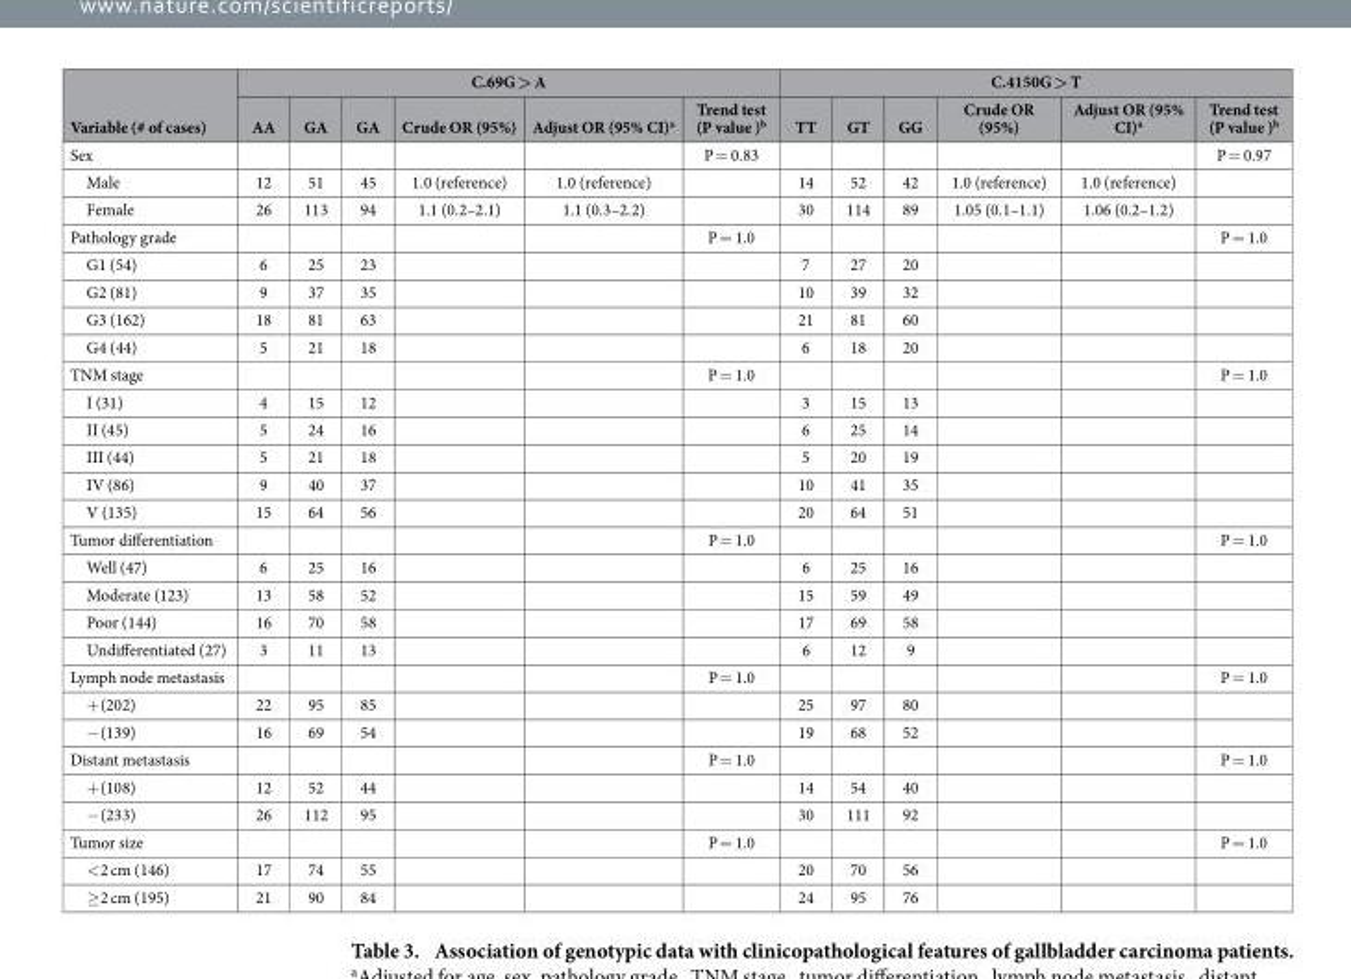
<table><thead><tr><td rowspan="2">Variable (# of cases)</td><td colspan="6">C.69G &gt; A</td><td colspan="6">C.4150G &gt; T</td></tr><tr><td>AA</td><td>GA</td><td>GA</td><td>Crude OR (95%)</td><td>Adjust OR (95% CI)<sup>a</sup></td><td>Trend test (P value )<sup>b</sup></td><td>TT</td><td>GT</td><td>GG</td><td>Crude OR (95%)</td><td>Adjust OR (95% CI)<sup>a</sup></td><td>Trend test (P value )<sup>b</sup></td></tr></thead><tbody><tr><td>Sex</td><td></td><td></td><td></td><td></td><td></td><td>P = 0.83</td><td></td><td></td><td></td><td></td><td></td><td>P = 0.97</td></tr><tr><td>Male</td><td>12</td><td>51</td><td>45</td><td>1.0 (reference)</td><td>1.0 (reference)</td><td></td><td>14</td><td>52</td><td>42</td><td>1.0 (reference)</td><td>1.0 (reference)</td><td></td></tr><tr><td>Female</td><td>26</td><td>113</td><td>94</td><td>1.1 (0.2–2.1)</td><td>1.1 (0.3–2.2)</td><td></td><td>30</td><td>114</td><td>89</td><td>1.05 (0.1–1.1)</td><td>1.06 (0.2–1.2)</td><td></td></tr><tr><td>Pathology grade</td><td></td><td></td><td></td><td></td><td></td><td>P = 1.0</td><td></td><td></td><td></td><td></td><td></td><td>P = 1.0</td></tr><tr><td>G1 (54)</td><td>6</td><td>25</td><td>23</td><td></td><td></td><td></td><td>7</td><td>27</td><td>20</td><td></td><td></td><td></td></tr><tr><td>G2 (81)</td><td>9</td><td>37</td><td>35</td><td></td><td></td><td></td><td>10</td><td>39</td><td>32</td><td></td><td></td><td></td></tr><tr><td>G3 (162)</td><td>18</td><td>81</td><td>63</td><td></td><td></td><td></td><td>21</td><td>81</td><td>60</td><td></td><td></td><td></td></tr><tr><td>G4 (44)</td><td>5</td><td>21</td><td>18</td><td></td><td></td><td></td><td>6</td><td>18</td><td>20</td><td></td><td></td><td></td></tr><tr><td>TNM stage</td><td></td><td></td><td></td><td></td><td></td><td>P = 1.0</td><td></td><td></td><td></td><td></td><td></td><td>P = 1.0</td></tr><tr><td>I (31)</td><td>4</td><td>15</td><td>12</td><td></td><td></td><td></td><td>3</td><td>15</td><td>13</td><td></td><td></td><td></td></tr><tr><td>II (45)</td><td>5</td><td>24</td><td>16</td><td></td><td></td><td></td><td>6</td><td>25</td><td>14</td><td></td><td></td><td></td></tr><tr><td>III (44)</td><td>5</td><td>21</td><td>18</td><td></td><td></td><td></td><td>5</td><td>20</td><td>19</td><td></td><td></td><td></td></tr><tr><td>IV (86)</td><td>9</td><td>40</td><td>37</td><td></td><td></td><td></td><td>10</td><td>41</td><td>35</td><td></td><td></td><td></td></tr><tr><td>V (135)</td><td>15</td><td>64</td><td>56</td><td></td><td></td><td></td><td>20</td><td>64</td><td>51</td><td></td><td></td><td></td></tr><tr><td>Tumor differentiation</td><td></td><td></td><td></td><td></td><td></td><td>P = 1.0</td><td></td><td></td><td></td><td></td><td></td><td>P = 1.0</td></tr><tr><td>Well (47)</td><td>6</td><td>25</td><td>16</td><td></td><td></td><td></td><td>6</td><td>25</td><td>16</td><td></td><td></td><td></td></tr><tr><td>Moderate (123)</td><td>13</td><td>58</td><td>52</td><td></td><td></td><td></td><td>15</td><td>59</td><td>49</td><td></td><td></td><td></td></tr><tr><td>Poor (144)</td><td>16</td><td>70</td><td>58</td><td></td><td></td><td></td><td>17</td><td>69</td><td>58</td><td></td><td></td><td></td></tr><tr><td>Undifferentiated (27)</td><td>3</td><td>11</td><td>13</td><td></td><td></td><td></td><td>6</td><td>12</td><td>9</td><td></td><td></td><td></td></tr><tr><td>Lymph node metastasis</td><td></td><td></td><td></td><td></td><td></td><td>P = 1.0</td><td></td><td></td><td></td><td></td><td></td><td>P = 1.0</td></tr><tr><td>+ (202)</td><td>22</td><td>95</td><td>85</td><td></td><td></td><td></td><td>25</td><td>97</td><td>80</td><td></td><td></td><td></td></tr><tr><td>− (139)</td><td>16</td><td>69</td><td>54</td><td></td><td></td><td></td><td>19</td><td>68</td><td>52</td><td></td><td></td><td></td></tr><tr><td>Distant metastasis</td><td></td><td></td><td></td><td></td><td></td><td>P = 1.0</td><td></td><td></td><td></td><td></td><td></td><td>P = 1.0</td></tr><tr><td>+ (108)</td><td>12</td><td>52</td><td>44</td><td></td><td></td><td></td><td>14</td><td>54</td><td>40</td><td></td><td></td><td></td></tr><tr><td>− (233)</td><td>26</td><td>112</td><td>95</td><td></td><td></td><td></td><td>30</td><td>111</td><td>92</td><td></td><td></td><td></td></tr><tr><td>Tumor size</td><td></td><td></td><td></td><td></td><td></td><td>P = 1.0</td><td></td><td></td><td></td><td></td><td></td><td>P = 1.0</td></tr><tr><td>&lt; 2 cm (146)</td><td>17</td><td>74</td><td>55</td><td></td><td></td><td></td><td>20</td><td>70</td><td>56</td><td></td><td></td><td></td></tr><tr><td>≥ 2 cm (195)</td><td>21</td><td>90</td><td>84</td><td></td><td></td><td></td><td>24</td><td>95</td><td>76</td><td></td><td></td><td></td></tr></tbody></table>